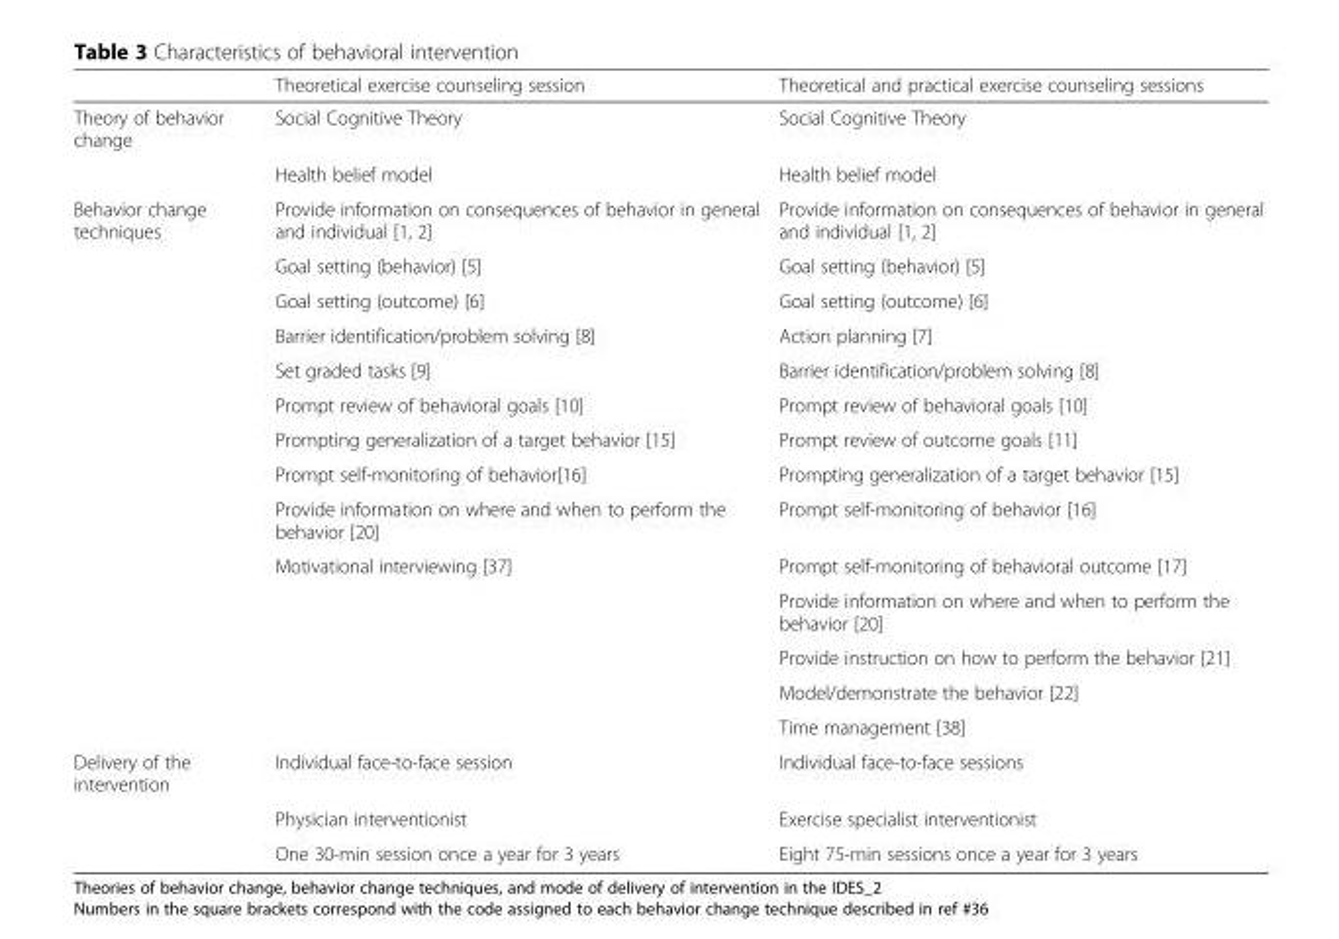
<table><thead><tr><td></td><td>Theoretical exercise counseling session</td><td>Theoretical and practical exercise counseling sessions</td></tr></thead><tbody><tr><td rowspan="2">Theory of behavior change</td><td>Social Cognitive Theory</td><td>Social Cognitive Theory</td></tr><tr><td>Health belief model</td><td>Health belief model</td></tr><tr><td rowspan="14">Behavior change techniques</td><td>Provide information on consequences of behavior in general and individual [1, 2]</td><td>Provide information on consequences of behavior in general and individual [1, 2]</td></tr><tr><td>Goal setting (behavior) [5]</td><td>Goal setting (behavior) [5]</td></tr><tr><td>Goal setting (outcome) [6]</td><td>Goal setting (outcome) [6]</td></tr><tr><td>Barrier identification/problem solving [8]</td><td>Action planning [7]</td></tr><tr><td>Set graded tasks [9]</td><td>Barrier identification/problem solving [8]</td></tr><tr><td>Prompt review of behavioral goals [10]</td><td>Prompt review of behavioral goals [10]</td></tr><tr><td>Prompting generalization of a target behavior [15]</td><td>Prompt review of outcome goals [11]</td></tr><tr><td>Prompt self-monitoring of behavior[16]</td><td>Prompting generalization of a target behavior [15]</td></tr><tr><td>Provide information on where and when to perform the behavior [20]</td><td>Prompt self-monitoring of behavior [16]</td></tr><tr><td>Motivational interviewing [37]</td><td>Prompt self-monitoring of behavioral outcome [17]</td></tr><tr><td></td><td>Provide information on where and when to perform the behavior [20]</td></tr><tr><td></td><td>Provide instruction on how to perform the behavior [21]</td></tr><tr><td></td><td>Model/demonstrate the behavior [22]</td></tr><tr><td></td><td>Time management [38]</td></tr><tr><td rowspan="3">Delivery of the intervention</td><td>Individual face-to-face session</td><td>Individual face-to-face sessions</td></tr><tr><td>Physician interventionist</td><td>Exercise specialist interventionist</td></tr><tr><td>One 30-min session once a year for 3 years</td><td>Eight 75-min sessions once a year for 3 years</td></tr></tbody></table>